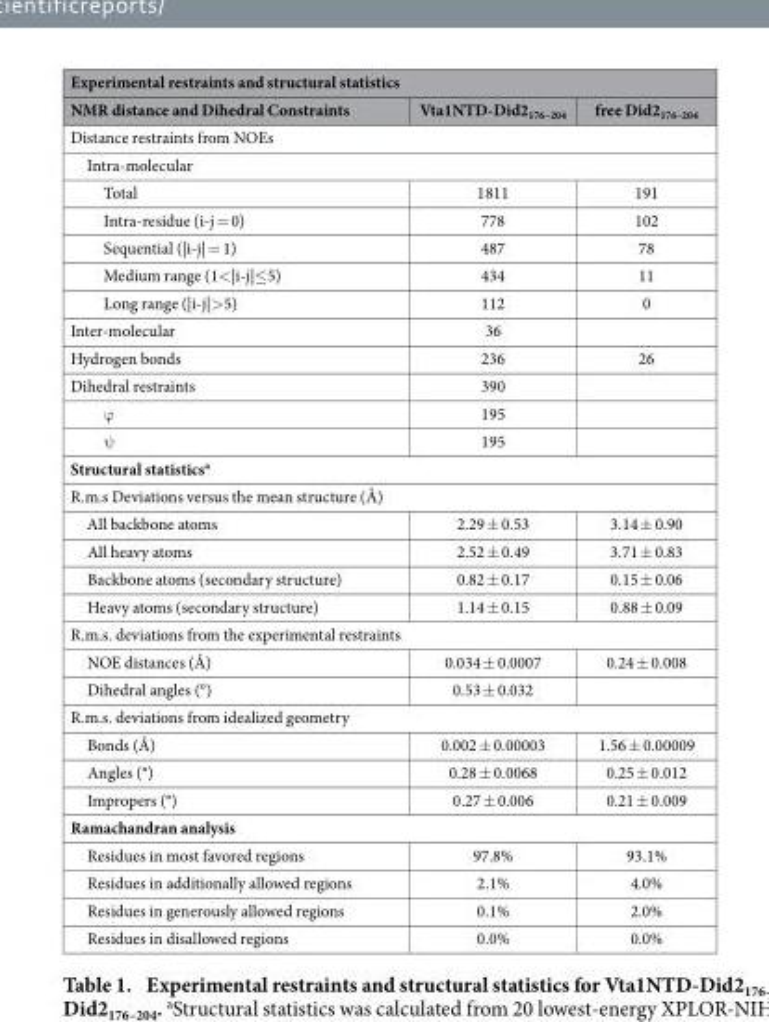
<table><thead><tr><td colspan="3">Experimental restraints and structural statistics</td></tr><tr><td>NMR distance and Dihedral Constraints</td><td>Vta1NTD-Did2<sub>176–204</sub></td><td>free Did2<sub>176–204</sub></td></tr></thead><tbody><tr><td colspan="3">Distance restraints from NOEs</td></tr><tr><td colspan="3">Intra-molecular</td></tr><tr><td>Total</td><td>1811</td><td>191</td></tr><tr><td>Intra-residue (i-j = 0)</td><td>778</td><td>102</td></tr><tr><td>Sequential (|i-j| = 1)</td><td>487</td><td>78</td></tr><tr><td>Medium range (1&lt; |i-j|≤ 5)</td><td>434</td><td>11</td></tr><tr><td>Long range (|i-j|&gt; 5)</td><td>112</td><td>0</td></tr><tr><td>Inter-molecular</td><td>36</td><td></td></tr><tr><td>Hydrogen bonds</td><td>236</td><td>26</td></tr><tr><td>Dihedral restraints</td><td>390</td><td></td></tr><tr><td>ϕ</td><td>195</td><td></td></tr><tr><td>ψ</td><td>195</td><td></td></tr><tr><td colspan="3">Structural statistics<sup>a</sup></td></tr><tr><td colspan="3">R.m.s Deviations versus the mean structure (Å)</td></tr><tr><td>All backbone atoms</td><td>2.29 ± 0.53</td><td>3.14 ± 0.90</td></tr><tr><td>All heavy atoms</td><td>2.52 ± 0.49</td><td>3.71 ± 0.83</td></tr><tr><td>Backbone atoms (secondary structure)</td><td>0.82 ± 0.17</td><td>0.15 ± 0.06</td></tr><tr><td>Heavy atoms (secondary structure)</td><td>1.14 ± 0.15</td><td>0.88 ± 0.09</td></tr><tr><td colspan="3">R.m.s. deviations from the experimental restraints</td></tr><tr><td>NOE distances (Å)</td><td>0.034 ± 0.0007</td><td>0.24 ± 0.008</td></tr><tr><td>Dihedral angles (°)</td><td>0.53 ± 0.032</td><td></td></tr><tr><td colspan="3">R.m.s. deviations from idealized geometry</td></tr><tr><td>Bonds (Å)</td><td>0.002 ± 0.00003</td><td>1.56 ± 0.00009</td></tr><tr><td>Angles (°)</td><td>0.28 ± 0.0068</td><td>0.25 ± 0.012</td></tr><tr><td>Impropers (°)</td><td>0.27 ± 0.006</td><td>0.21 ± 0.009</td></tr><tr><td colspan="3">Ramachandran analysis</td></tr><tr><td>Residues in most favored regions</td><td>97.8%</td><td>93.1%</td></tr><tr><td>Residues in additionally allowed regions</td><td>2.1%</td><td>4.0%</td></tr><tr><td>Residues in generously allowed regions</td><td>0.1%</td><td>2.0%</td></tr><tr><td>Residues in disallowed regions</td><td>0.0%</td><td>0.0%</td></tr></tbody></table>